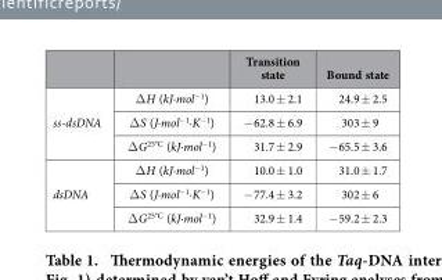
<table><thead><tr><td></td><td></td><td>Transition state</td><td>Bound state</td></tr></thead><tbody><tr><td rowspan="3">ss-dsDNA</td><td>Δ H (kJ·mol<sup>−1</sup>)</td><td>13.0 ± 2.1</td><td>24.9 ± 2.5</td></tr><tr><td>Δ S (J·mol<sup>−1</sup>·K<sup>−1</sup>)</td><td>− 62.8 ± 6.9</td><td>303 ± 9</td></tr><tr><td>Δ G<sup>25°C</sup> (kJ·mol<sup>−1</sup>)</td><td>31.7 ± 2.9</td><td>− 65.5 ± 3.6</td></tr><tr><td rowspan="3">dsDNA</td><td>Δ H (kJ·mol<sup>−1</sup>)</td><td>10.0 ± 1.0</td><td>31.0 ± 1.7</td></tr><tr><td>Δ S (J·mol<sup>−1</sup>·K<sup>−1</sup>)</td><td>− 77.4 ± 3.2</td><td>302 ± 6</td></tr><tr><td>Δ G<sup>25°C</sup> (kJ·mol<sup>−1</sup>)</td><td>32.9 ± 1.4</td><td>− 59.2 ± 2.3</td></tr></tbody></table>